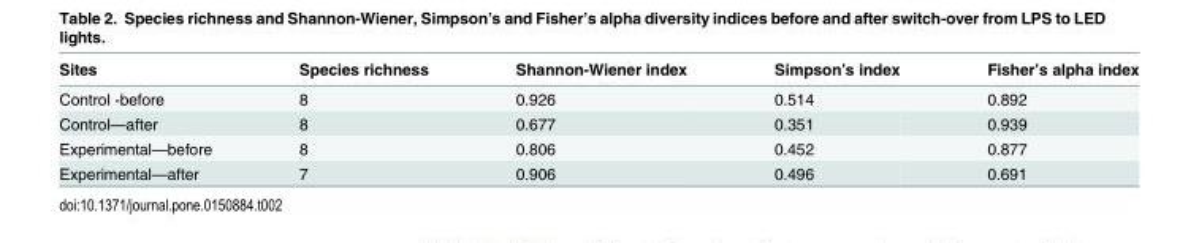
<table><thead><tr><td>Sites</td><td>Species richness</td><td>Shannon-Wiener index</td><td>Simpson’s index</td><td>Fisher’s alpha index</td></tr></thead><tbody><tr><td>Control -before</td><td>8</td><td>0.926</td><td>0.514</td><td>0.892</td></tr><tr><td>Control—after</td><td>8</td><td>0.677</td><td>0.351</td><td>0.939</td></tr><tr><td>Experimental—before</td><td>8</td><td>0.806</td><td>0.452</td><td>0.877</td></tr><tr><td>Experimental—after</td><td>7</td><td>0.906</td><td>0.496</td><td>0.691</td></tr></tbody></table>